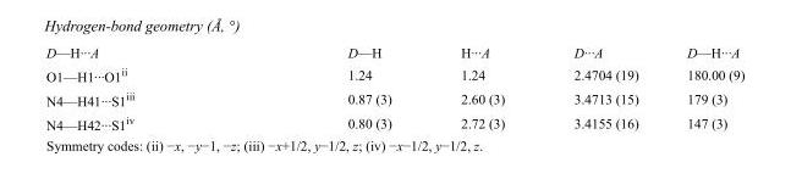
<table><tbody><tr><td>D—H···A</td><td>D—H</td><td>H···A</td><td>D···A</td><td>D—H···A</td></tr><tr><td>O1—H1···O1<sup>ii</sup></td><td>1.24</td><td>1.24</td><td>2.4704 (19)</td><td>180.00 (9)</td></tr><tr><td>N4—H41···S1<sup>iii</sup></td><td>0.87 (3)</td><td>2.60 (3)</td><td>3.4713 (15)</td><td>179 (3)</td></tr><tr><td>N4—H42···S1<sup>iv</sup></td><td>0.80 (3)</td><td>2.72 (3)</td><td>3.4155 (16)</td><td>147 (3)</td></tr></tbody></table>